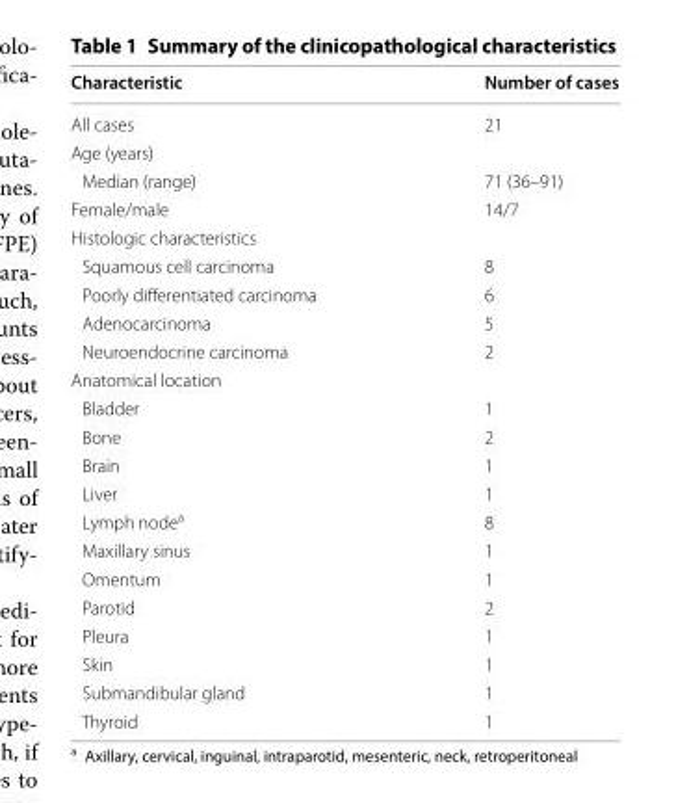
<table><thead><tr><td>Characteristic</td><td>Number of cases</td></tr></thead><tbody><tr><td>All cases</td><td>21</td></tr><tr><td colspan="2">Age (years)</td></tr><tr><td>Median (range)</td><td>71 (36–91)</td></tr><tr><td>Female/male</td><td>14/7</td></tr><tr><td colspan="2">Histologic characteristics</td></tr><tr><td>Squamous cell carcinoma</td><td>8</td></tr><tr><td>Poorly differentiated carcinoma</td><td>6</td></tr><tr><td>Adenocarcinoma</td><td>5</td></tr><tr><td>Neuroendocrine carcinoma</td><td>2</td></tr><tr><td colspan="2">Anatomical location</td></tr><tr><td>Bladder</td><td>1</td></tr><tr><td>Bone</td><td>2</td></tr><tr><td>Brain</td><td>1</td></tr><tr><td>Liver</td><td>1</td></tr><tr><td>Lymph node<sup>a</sup></td><td>8</td></tr><tr><td>Maxillary sinus</td><td>1</td></tr><tr><td>Omentum</td><td>1</td></tr><tr><td>Parotid</td><td>2</td></tr><tr><td>Pleura</td><td>1</td></tr><tr><td>Skin</td><td>1</td></tr><tr><td>Submandibular gland</td><td>1</td></tr><tr><td>Thyroid</td><td>1</td></tr></tbody></table>